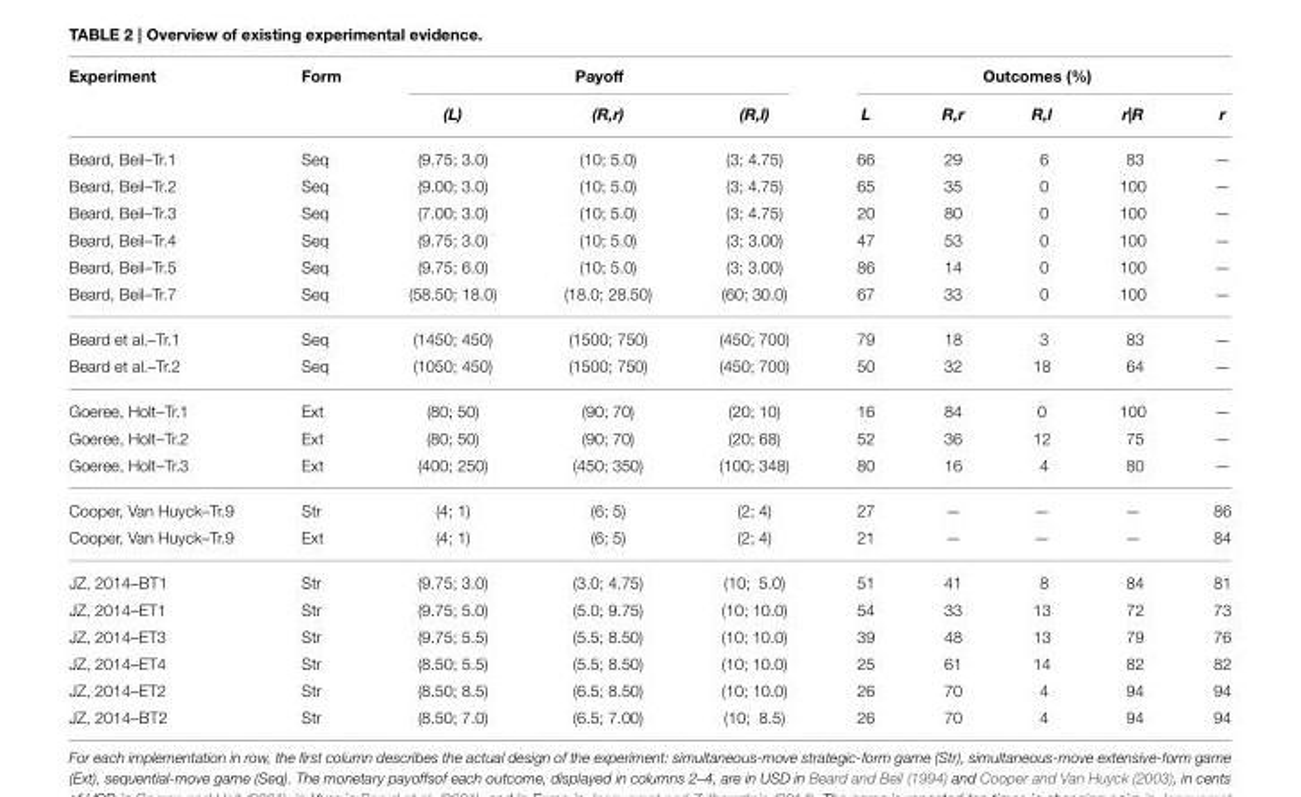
<table><thead><tr><td rowspan="2">Experiment</td><td rowspan="2">Form</td><td colspan="3">Payoff</td><td colspan="5">Outcomes (%)</td></tr><tr><td>(L)</td><td>(R,r)</td><td>(R,l)</td><td>L</td><td>R,r</td><td>R,l</td><td>r|R</td><td>r</td></tr></thead><tbody><tr><td>Beard, Beil–Tr.1</td><td>Seq</td><td>(9.75; 3.0)</td><td>(10; 5.0)</td><td>(3; 4.75)</td><td>66</td><td>29</td><td>6</td><td>83</td><td>—</td></tr><tr><td>Beard, Beil–Tr.2</td><td>Seq</td><td>(9.00; 3.0)</td><td>(10; 5.0)</td><td>(3; 4.75)</td><td>65</td><td>35</td><td>0</td><td>100</td><td>—</td></tr><tr><td>Beard, Beil–Tr.3</td><td>Seq</td><td>(7.00; 3.0)</td><td>(10; 5.0)</td><td>(3; 4.75)</td><td>20</td><td>80</td><td>0</td><td>100</td><td>—</td></tr><tr><td>Beard, Beil–Tr.4</td><td>Seq</td><td>(9.75; 3.0)</td><td>(10; 5.0)</td><td>(3; 3.00)</td><td>47</td><td>53</td><td>0</td><td>100</td><td>—</td></tr><tr><td>Beard, Beil–Tr.5</td><td>Seq</td><td>(9.75; 6.0)</td><td>(10; 5.0)</td><td>(3; 3.00)</td><td>86</td><td>14</td><td>0</td><td>100</td><td>—</td></tr><tr><td>Beard, Beil–Tr.7</td><td>Seq</td><td>(58.50; 18.0)</td><td>(18.0; 28.50)</td><td>(60; 30.0)</td><td>67</td><td>33</td><td>0</td><td>100</td><td>—</td></tr><tr><td>Beard et al.–Tr.1</td><td>Seq</td><td>(1450; 450)</td><td>(1500; 750)</td><td>(450; 700)</td><td>79</td><td>18</td><td>3</td><td>83</td><td>—</td></tr><tr><td>Beard et al.–Tr.2</td><td>Seq</td><td>(1050; 450)</td><td>(1500; 750)</td><td>(450; 700)</td><td>50</td><td>32</td><td>18</td><td>64</td><td>—</td></tr><tr><td>Goeree, Holt–Tr.1</td><td>Ext</td><td>(80; 50)</td><td>(90; 70)</td><td>(20; 10)</td><td>16</td><td>84</td><td>0</td><td>100</td><td>—</td></tr><tr><td>Goeree, Holt–Tr.2</td><td>Ext</td><td>(80; 50)</td><td>(90; 70)</td><td>(20; 68)</td><td>52</td><td>36</td><td>12</td><td>75</td><td>—</td></tr><tr><td>Goeree, Holt–Tr.3</td><td>Ext</td><td>(400; 250)</td><td>(450; 350)</td><td>(100; 348)</td><td>80</td><td>16</td><td>4</td><td>80</td><td>—</td></tr><tr><td>Cooper, Van Huyck–Tr.9</td><td>Str</td><td>(4; 1)</td><td>(6; 5)</td><td>(2; 4)</td><td>27</td><td>—</td><td>—</td><td>—</td><td>86</td></tr><tr><td>Cooper, Van Huyck–Tr.9</td><td>Ext</td><td>(4; 1)</td><td>(6; 5)</td><td>(2; 4)</td><td>21</td><td>—</td><td>—</td><td>—</td><td>84</td></tr><tr><td>JZ, 2014–BT1</td><td>Str</td><td>(9.75; 3.0)</td><td>(3.0; 4.75)</td><td>(10; 5.0)</td><td>51</td><td>41</td><td>8</td><td>84</td><td>81</td></tr><tr><td>JZ, 2014–ET1</td><td>Str</td><td>(9.75; 5.0)</td><td>(5.0; 9.75)</td><td>(10; 10.0)</td><td>54</td><td>33</td><td>13</td><td>72</td><td>73</td></tr><tr><td>JZ, 2014–ET3</td><td>Str</td><td>(9.75; 5.5)</td><td>(5.5; 8.50)</td><td>(10; 10.0)</td><td>39</td><td>48</td><td>13</td><td>79</td><td>76</td></tr><tr><td>JZ, 2014–ET4</td><td>Str</td><td>(8.50; 5.5)</td><td>(5.5; 8.50)</td><td>(10; 10.0)</td><td>25</td><td>61</td><td>14</td><td>82</td><td>82</td></tr><tr><td>JZ, 2014–ET2</td><td>Str</td><td>(8.50; 8.5)</td><td>(6.5; 8.50)</td><td>(10; 10.0)</td><td>26</td><td>70</td><td>4</td><td>94</td><td>94</td></tr><tr><td>JZ, 2014–BT2</td><td>Str</td><td>(8.50; 7.0)</td><td>(6.5; 7.00)</td><td>(10; 8.5)</td><td>26</td><td>70</td><td>4</td><td>94</td><td>94</td></tr></tbody></table>